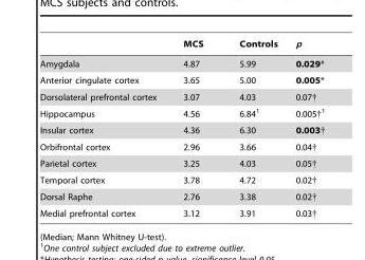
<table><thead><tr><td></td><td>MCS</td><td>Controls</td><td>p</td></tr></thead><tbody><tr><td>Amygdala</td><td>4.87</td><td>5.99</td><td>0.029*</td></tr><tr><td>Anterior cingulate cortex</td><td>3.65</td><td>5.00</td><td>0.005*</td></tr><tr><td>Dorsolateral prefrontal cortex</td><td>3.07</td><td>4.03</td><td>0.07†</td></tr><tr><td>Hippocampus</td><td>4.56</td><td>6.84<sup>1</sup></td><td>0.005†1</td></tr><tr><td>Insular cortex</td><td>4.36</td><td>6.30</td><td>0.003†</td></tr><tr><td>Orbifrontal cortex</td><td>2.96</td><td>3.66</td><td>0.04†</td></tr><tr><td>Parietal cortex</td><td>3.25</td><td>4.03</td><td>0.05†</td></tr><tr><td>Temporal cortex</td><td>3.78</td><td>4.72</td><td>0.02†</td></tr><tr><td>Dorsal Raphe</td><td>2.76</td><td>3.38</td><td>0.02†</td></tr><tr><td>Medial prefrontal cortex</td><td>3.12</td><td>3.91</td><td>0.03†</td></tr></tbody></table>